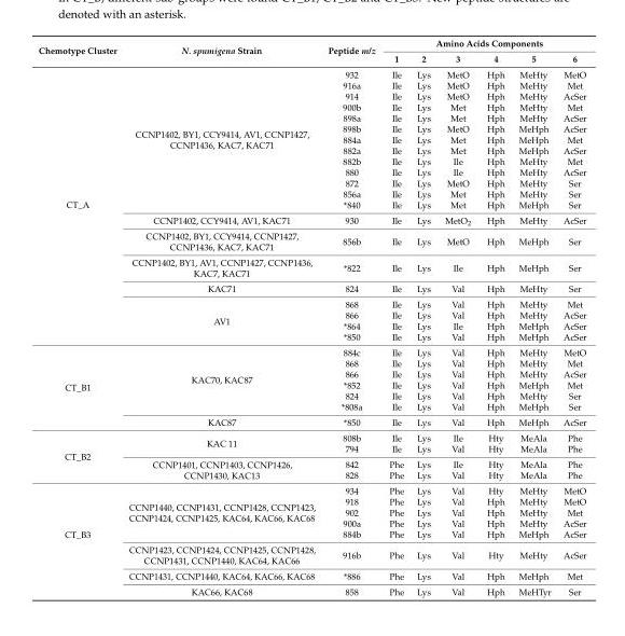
<table><thead><tr><td rowspan="2">Chemotype Cluster</td><td rowspan="2">N. spumigena Strain</td><td rowspan="2">Peptide m/z</td><td colspan="6">Amino Acids Components</td></tr><tr><td>1</td><td>2</td><td>3</td><td>4</td><td>5</td><td>6</td></tr></thead><tbody><tr><td rowspan="21">CT_A</td><td rowspan="13">CCNP1402, BY1, CCY9414, AV1, CCNP1427, CCNP1436, KAC7, KAC71</td><td>932</td><td>Ile</td><td>Lys</td><td>MetO</td><td>Hph</td><td>MeHty</td><td>MetO</td></tr><tr><td>916a</td><td>Ile</td><td>Lys</td><td>MetO</td><td>Hph</td><td>MeHty</td><td>Met</td></tr><tr><td>914</td><td>Ile</td><td>Lys</td><td>MetO</td><td>Hph</td><td>MeHty</td><td>AcSer</td></tr><tr><td>900b</td><td>Ile</td><td>Lys</td><td>Met</td><td>Hph</td><td>MeHty</td><td>Met</td></tr><tr><td>898a</td><td>Ile</td><td>Lys</td><td>Met</td><td>Hph</td><td>MeHty</td><td>AcSer</td></tr><tr><td>898b</td><td>Ile</td><td>Lys</td><td>MetO</td><td>Hph</td><td>MeHph</td><td>AcSer</td></tr><tr><td>884a</td><td>Ile</td><td>Lys</td><td>Met</td><td>Hph</td><td>MeHph</td><td>Met</td></tr><tr><td>882a</td><td>Ile</td><td>Lys</td><td>Met</td><td>Hph</td><td>MeHph</td><td>AcSer</td></tr><tr><td>882b</td><td>Ile</td><td>Lys</td><td>Ile</td><td>Hph</td><td>MeHty</td><td>Met</td></tr><tr><td>880</td><td>Ile</td><td>Lys</td><td>Ile</td><td>Hph</td><td>MeHty</td><td>AcSer</td></tr><tr><td>872</td><td>Ile</td><td>Lys</td><td>MetO</td><td>Hph</td><td>MeHty</td><td>Ser</td></tr><tr><td>856a</td><td>Ile</td><td>Lys</td><td>Met</td><td>Hph</td><td>MeHty</td><td>Ser</td></tr><tr><td>*840</td><td>Ile</td><td>Lys</td><td>Met</td><td>Hph</td><td>MeHph</td><td>Ser</td></tr><tr><td>CCNP1402, CCY9414, AV1, KAC71</td><td>930</td><td>Ile</td><td>Lys</td><td>MetO<sub>2</sub></td><td>Hph</td><td>MeHty</td><td>AcSer</td></tr><tr><td>CCNP1402, BY1, CCY9414, CCNP1427, CCNP1436, KAC7, KAC71</td><td>856b</td><td>Ile</td><td>Lys</td><td>MetO</td><td>Hph</td><td>MeHph</td><td>Ser</td></tr><tr><td>CCNP1402, BY1, AV1, CCNP1427, CCNP1436, KAC7, KAC71</td><td>*822</td><td>Ile</td><td>Lys</td><td>Ile</td><td>Hph</td><td>MeHph</td><td>Ser</td></tr><tr><td>KAC71</td><td>824</td><td>Ile</td><td>Lys</td><td>Val</td><td>Hph</td><td>MeHty</td><td>Ser</td></tr><tr><td rowspan="4">AV1</td><td>868</td><td>Ile</td><td>Lys</td><td>Val</td><td>Hph</td><td>MeHty</td><td>Met</td></tr><tr><td>866</td><td>Ile</td><td>Lys</td><td>Val</td><td>Hph</td><td>MeHty</td><td>AcSer</td></tr><tr><td>*864</td><td>Ile</td><td>Lys</td><td>Ile</td><td>Hph</td><td>MeHph</td><td>AcSer</td></tr><tr><td>*850</td><td>Ile</td><td>Lys</td><td>Val</td><td>Hph</td><td>MeHph</td><td>AcSer</td></tr><tr><td rowspan="7">CT_B1</td><td rowspan="6">KAC70, KAC87</td><td>884c</td><td>Ile</td><td>Lys</td><td>Val</td><td>Hph</td><td>MeHty</td><td>MetO</td></tr><tr><td>868</td><td>Ile</td><td>Lys</td><td>Val</td><td>Hph</td><td>MeHty</td><td>Met</td></tr><tr><td>866</td><td>Ile</td><td>Lys</td><td>Val</td><td>Hph</td><td>MeHty</td><td>AcSer</td></tr><tr><td>*852</td><td>Ile</td><td>Lys</td><td>Val</td><td>Hph</td><td>MeHph</td><td>Met</td></tr><tr><td>824</td><td>Ile</td><td>Lys</td><td>Val</td><td>Hph</td><td>MeHty</td><td>Ser</td></tr><tr><td>*808a</td><td>Ile</td><td>Lys</td><td>Val</td><td>Hph</td><td>MeHph</td><td>Ser</td></tr><tr><td>KAC87</td><td>*850</td><td>Ile</td><td>Lys</td><td>Val</td><td>Hph</td><td>MeHph</td><td>AcSer</td></tr><tr><td rowspan="4">CT_B2</td><td rowspan="2">KAC 11</td><td>808b</td><td>Ile</td><td>Lys</td><td>Ile</td><td>Hty</td><td>MeAla</td><td>Phe</td></tr><tr><td>794</td><td>Ile</td><td>Lys</td><td>Val</td><td>Hty</td><td>MeAla</td><td>Phe</td></tr><tr><td rowspan="2">CCNP1401, CCNP1403, CCNP1426, CCNP1430, KAC13</td><td>842</td><td>Phe</td><td>Lys</td><td>Ile</td><td>Hty</td><td>MeAla</td><td>Phe</td></tr><tr><td>828</td><td>Phe</td><td>Lys</td><td>Val</td><td>Hty</td><td>MeAla</td><td>Phe</td></tr><tr><td rowspan="8">CT_B3</td><td rowspan="5">CCNP1440, CCNP1431, CCNP1428, CCNP1423, CCNP1424, CCNP1425, KAC64, KAC66, KAC68</td><td>934</td><td>Phe</td><td>Lys</td><td>Val</td><td>Hty</td><td>MeHty</td><td>MetO</td></tr><tr><td>918</td><td>Phe</td><td>Lys</td><td>Val</td><td>Hph</td><td>MeHty</td><td>MetO</td></tr><tr><td>902</td><td>Phe</td><td>Lys</td><td>Val</td><td>Hph</td><td>MeHty</td><td>Met</td></tr><tr><td>900a</td><td>Phe</td><td>Lys</td><td>Val</td><td>Hph</td><td>MeHty</td><td>AcSer</td></tr><tr><td>884b</td><td>Phe</td><td>Lys</td><td>Val</td><td>Hph</td><td>MeHph</td><td>AcSer</td></tr><tr><td>CCNP1423, CCNP1424, CCNP1425, CCNP1428, CCNP1431, CCNP1440, KAC64, KAC66</td><td>916b</td><td>Phe</td><td>Lys</td><td>Val</td><td>Hty</td><td>MeHty</td><td>AcSer</td></tr><tr><td>CCNP1431, CCNP1440, KAC64, KAC66, KAC68</td><td>*886</td><td>Phe</td><td>Lys</td><td>Val</td><td>Hph</td><td>MeHph</td><td>Met</td></tr><tr><td>KAC66, KAC68</td><td>858</td><td>Phe</td><td>Lys</td><td>Val</td><td>Hph</td><td>MeHTyr</td><td>Ser</td></tr></tbody></table>